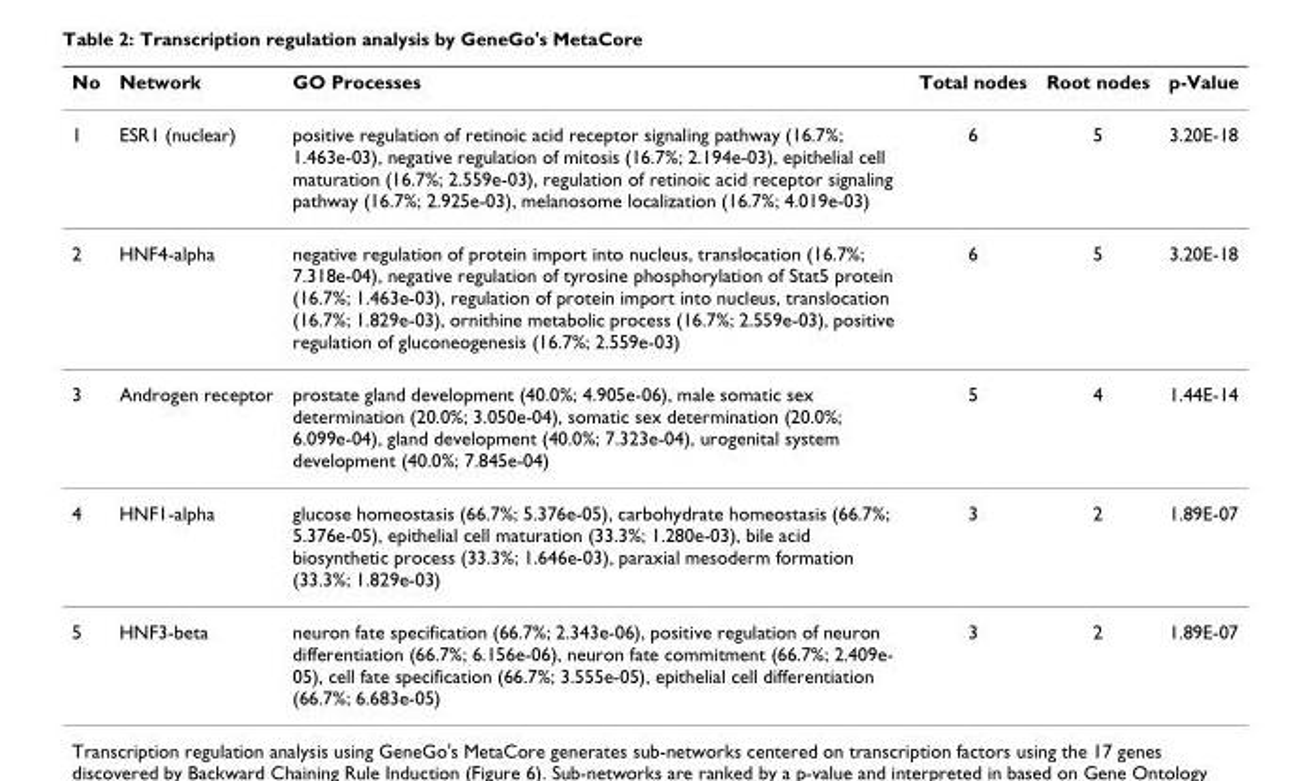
<table><thead><tr><td>No</td><td>Network</td><td>GO Processes</td><td>Total nodes</td><td>Root nodes</td><td>p-Value</td></tr></thead><tbody><tr><td>1</td><td>ESR1 (nuclear)</td><td>positive regulation of retinoic acid receptor signaling pathway (16.7%; 1.463e-03), negative regulation of mitosis (16.7%; 2.194e-03), epithelial cell maturation (16.7%; 2.559e-03), regulation of retinoic acid receptor signaling pathway (16.7%; 2.925e-03), melanosome localization (16.7%; 4.019e-03)</td><td>6</td><td>5</td><td>3.20E-18</td></tr><tr><td>2</td><td>HNF4-alpha</td><td>negative regulation of protein import into nucleus, translocation (16.7%; 7.318e-04), negative regulation of tyrosine phosphorylation of Stat5 protein (16.7%; 1.463e-03), regulation of protein import into nucleus, translocation (16.7%; 1.829e-03), ornithine metabolic process (16.7%; 2.559e-03), positive regulation of gluconeogenesis (16.7%; 2.559e-03)</td><td>6</td><td>5</td><td>3.20E-18</td></tr><tr><td>3</td><td>Androgen receptor</td><td>prostate gland development (40.0%; 4.905e-06), male somatic sex determination (20.0%; 3.050e-04), somatic sex determination (20.0%; 6.099e-04), gland development (40.0%; 7.323e-04), urogenital system development (40.0%; 7.845e-04)</td><td>5</td><td>4</td><td>1.44E-14</td></tr><tr><td>4</td><td>HNF1-alpha</td><td>glucose homeostasis (66.7%; 5.376e-05), carbohydrate homeostasis (66.7%; 5.376e-05), epithelial cell maturation (33.3%; 1.280e-03), bile acid biosynthetic process (33.3%; 1.646e-03), paraxial mesoderm formation (33.3%; 1.829e-03)</td><td>3</td><td>2</td><td>1.89E-07</td></tr><tr><td>5</td><td>HNF3-beta</td><td>neuron fate specification (66.7%; 2.343e-06), positive regulation of neuron differentiation (66.7%; 6.156e-06), neuron fate commitment (66.7%; 2.409e- 05), cell fate specification (66.7%; 3.555e-05), epithelial cell differentiation (66.7%; 6.683e-05)</td><td>3</td><td>2</td><td>1.89E-07</td></tr></tbody></table>